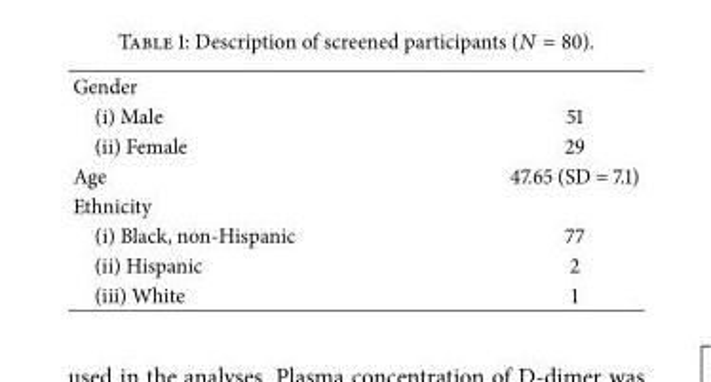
<table><tbody><tr><td colspan="2">Gender</td></tr><tr><td>(i) Male</td><td>51</td></tr><tr><td>(ii) Female</td><td>29</td></tr><tr><td>Age</td><td>47.65 (SD = 7.1)</td></tr><tr><td colspan="2">Ethnicity</td></tr><tr><td>(i) Black, non-Hispanic</td><td>77</td></tr><tr><td>(ii) Hispanic</td><td>2</td></tr><tr><td>(iii) White</td><td>1</td></tr></tbody></table>